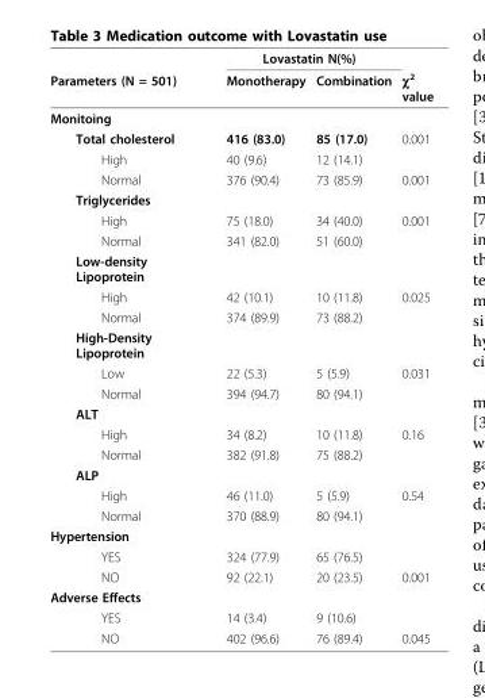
<table><thead><tr><td rowspan="2">Parameters (N = 501)</td><td colspan="2">Lovastatin N(%)</td><td rowspan="2">χ<sup>2</sup> value</td></tr><tr><td>Monotherapy</td><td>Combination</td></tr></thead><tbody><tr><td colspan="4">Monitoing</td></tr><tr><td>Total cholesterol</td><td>416 (83.0)</td><td>85 (17.0)</td><td>0.001</td></tr><tr><td>High</td><td>40 (9.6)</td><td>12 (14.1)</td><td></td></tr><tr><td>Normal</td><td>376 (90.4)</td><td>73 (85.9)</td><td>0.001</td></tr><tr><td colspan="4">Triglycerides</td></tr><tr><td>High</td><td>75 (18.0)</td><td>34 (40.0)</td><td>0.001</td></tr><tr><td>Normal</td><td>341 (82.0)</td><td>51 (60.0)</td><td></td></tr><tr><td colspan="4">Low-density Lipoprotein</td></tr><tr><td>High</td><td>42 (10.1)</td><td>10 (11.8)</td><td>0.025</td></tr><tr><td>Normal</td><td>374 (89.9)</td><td>73 (88.2)</td><td></td></tr><tr><td colspan="4">High-Density Lipoprotein</td></tr><tr><td>Low</td><td>22 (5.3)</td><td>5 (5.9)</td><td>0.031</td></tr><tr><td>Normal</td><td>394 (94.7)</td><td>80 (94.1)</td><td></td></tr><tr><td colspan="4">ALT</td></tr><tr><td>High</td><td>34 (8.2)</td><td>10 (11.8)</td><td>0.16</td></tr><tr><td>Normal</td><td>382 (91.8)</td><td>75 (88.2)</td><td></td></tr><tr><td colspan="4">ALP</td></tr><tr><td>High</td><td>46 (11.0)</td><td>5 (5.9)</td><td>0.54</td></tr><tr><td>Normal</td><td>370 (88.9)</td><td>80 (94.1)</td><td></td></tr><tr><td colspan="4">Hypertension</td></tr><tr><td>YES</td><td>324 (77.9)</td><td>65 (76.5)</td><td></td></tr><tr><td>NO</td><td>92 (22.1)</td><td>20 (23.5)</td><td>0.001</td></tr><tr><td colspan="4">Adverse Effects</td></tr><tr><td>YES</td><td>14 (3.4)</td><td>9 (10.6)</td><td></td></tr><tr><td>NO</td><td>402 (96.6)</td><td>76 (89.4)</td><td>0.045</td></tr></tbody></table>